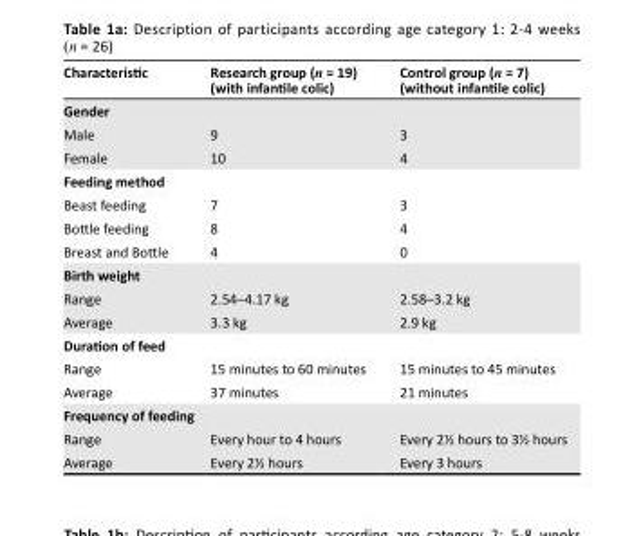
<table><thead><tr><td>Characteristic</td><td>Research group (n = 19) (with infantile colic)</td><td>Control group (n = 7) (without infantile colic)</td></tr></thead><tbody><tr><td colspan="3">Gender</td></tr><tr><td>Male</td><td>9</td><td>3</td></tr><tr><td>Female</td><td>10</td><td>4</td></tr><tr><td colspan="3">Feeding method</td></tr><tr><td>Beast feeding</td><td>7</td><td>3</td></tr><tr><td>Bottle feeding</td><td>8</td><td>4</td></tr><tr><td>Breast and Bottle</td><td>4</td><td>0</td></tr><tr><td colspan="3">Birth weight</td></tr><tr><td>Range</td><td>2.54–4.17 kg</td><td>2.58–3.2 kg</td></tr><tr><td>Average</td><td>3.3 kg</td><td>2.9 kg</td></tr><tr><td colspan="3">Duration of feed</td></tr><tr><td>Range</td><td>15 minutes to 60 minutes</td><td>15 minutes to 45 minutes</td></tr><tr><td>Average</td><td>37 minutes</td><td>21 minutes</td></tr><tr><td colspan="3">Frequency of feeding</td></tr><tr><td>Range</td><td>Every hour to 4 hours</td><td>Every 2½ hours to 3½ hours</td></tr><tr><td>Average</td><td>Every 2½ hours</td><td>Every 3 hours</td></tr></tbody></table>